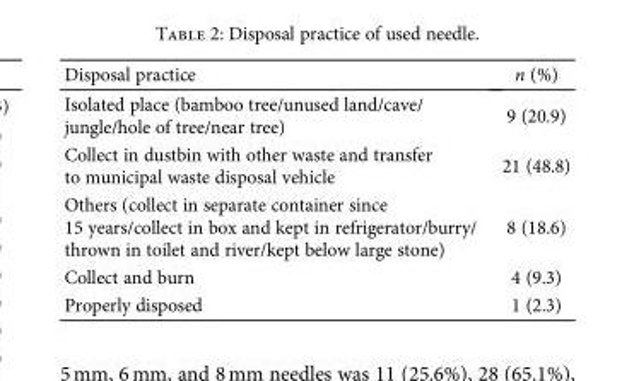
<table><thead><tr><td>Disposal practice</td><td>n (%)</td></tr></thead><tbody><tr><td>Isolated place (bamboo tree/unused land/cave/ jungle/hole of tree/near tree)</td><td>9 (20.9)</td></tr><tr><td>Collect in dustbin with other waste and transfer to municipal waste disposal vehicle</td><td>21 (48.8)</td></tr><tr><td>Others (collect in separate container since 15 years/collect in box and kept in refrigerator/burry/ thrown in toilet and river/kept below large stone)</td><td>8 (18.6)</td></tr><tr><td>Collect and burn</td><td>4 (9.3)</td></tr><tr><td>Properly disposed</td><td>1 (2.3)</td></tr></tbody></table>